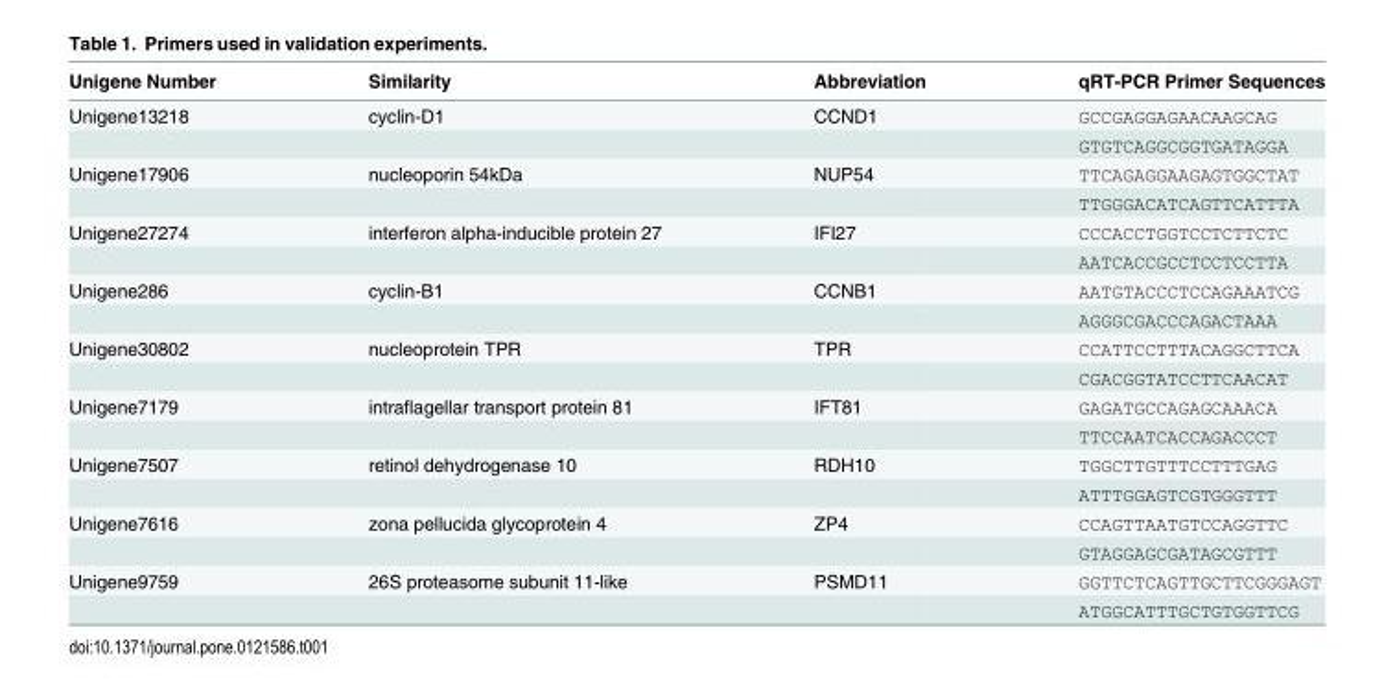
<table><thead><tr><td>Unigene Number</td><td>Similarity</td><td>Abbreviation</td><td>qRT-PCR Primer Sequences</td></tr></thead><tbody><tr><td rowspan="2">Unigene13218</td><td>cyclin-D1</td><td>CCND1</td><td>GCCGAGGAGAACAAGCAG</td></tr><tr><td></td><td></td><td>GTGTCAGGCGGTGATAGGA</td></tr><tr><td rowspan="2">Unigene17906</td><td>nucleoporin 54kDa</td><td>NUP54</td><td>TTCAGAGGAAGAGTGGCTAT</td></tr><tr><td></td><td></td><td>TTGGGACATCAGTTCATTTA</td></tr><tr><td rowspan="2">Unigene27274</td><td>interferon alpha-inducible protein 27</td><td>IFI27</td><td>CCCACCTGGTCCTCTTCTC</td></tr><tr><td></td><td></td><td>AATCACCGCCTCCTCCTTA</td></tr><tr><td rowspan="2">Unigene286</td><td>cyclin-B1</td><td>CCNB1</td><td>AATGTACCCTCCAGAAATCG</td></tr><tr><td></td><td></td><td>AGGGCGACCCAGACTAAA</td></tr><tr><td rowspan="2">Unigene30802</td><td>nucleoprotein TPR</td><td>TPR</td><td>CCATTCCTTTACAGGCTTCA</td></tr><tr><td></td><td></td><td>CGACGGTATCCTTCAACAT</td></tr><tr><td rowspan="2">Unigene7179</td><td>intraflagellar transport protein 81</td><td>IFT81</td><td>GAGATGCCAGAGCAAACA</td></tr><tr><td></td><td></td><td>TTCCAATCACCAGACCCT</td></tr><tr><td rowspan="2">Unigene7507</td><td>retinol dehydrogenase 10</td><td>RDH10</td><td>TGGCTTGTTTCCTTTGAG</td></tr><tr><td></td><td></td><td>ATTTGGAGTCGTGGGTTT</td></tr><tr><td rowspan="2">Unigene7616</td><td>zona pellucida glycoprotein 4</td><td>ZP4</td><td>CCAGTTAATGTCCAGGTTC</td></tr><tr><td></td><td></td><td>GTAGGAGCGATAGCGTTT</td></tr><tr><td rowspan="2">Unigene9759</td><td>26S proteasome subunit 11-like</td><td>PSMD11</td><td>GGTTCTCAGTTGCTTCGGGAGT</td></tr><tr><td></td><td></td><td>ATGGCATTTGCTGTGGTTCG</td></tr></tbody></table>